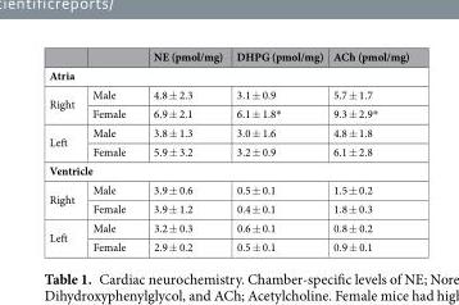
<table><thead><tr><td></td><td></td><td>NE (pmol/mg)</td><td>DHPG (pmol/mg)</td><td>ACh (pmol/mg)</td></tr></thead><tbody><tr><td colspan="5">Atria</td></tr><tr><td rowspan="2">Right</td><td>Male</td><td>4.8 ± 2.3</td><td>3.1 ± 0.9</td><td>5.7 ± 1.7</td></tr><tr><td>Female</td><td>6.9 ± 2.1</td><td>6.1 ± 1.8*</td><td>9.3 ± 2.9*</td></tr><tr><td rowspan="2">Left</td><td>Male</td><td>3.8 ± 1.3</td><td>3.0 ± 1.6</td><td>4.8 ± 1.8</td></tr><tr><td>Female</td><td>5.9 ± 3.2</td><td>3.2 ± 0.9</td><td>6.1 ± 2.8</td></tr><tr><td colspan="5">Ventricle</td></tr><tr><td rowspan="2">Right</td><td>Male</td><td>3.9 ± 0.6</td><td>0.5 ± 0.1</td><td>1.5 ± 0.2</td></tr><tr><td>Female</td><td>3.9 ± 1.2</td><td>0.4 ± 0.1</td><td>1.8 ± 0.3</td></tr><tr><td rowspan="2">Left</td><td>Male</td><td>3.2 ± 0.3</td><td>0.6 ± 0.1</td><td>0.8 ± 0.2</td></tr><tr><td>Female</td><td>2.9 ± 0.2</td><td>0.5 ± 0.1</td><td>0.9 ± 0.1</td></tr></tbody></table>